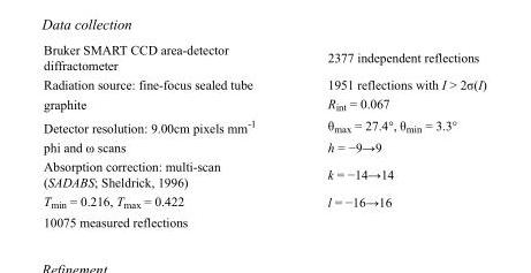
<table><tbody><tr><td>Bruker SMART CCD area-detector diffractometer</td><td>2377 independent reflections</td></tr><tr><td>Radiation source: fine-focus sealed tube</td><td>1951 reflections with I &gt; 2σ(I)</td></tr><tr><td>graphite</td><td>R<sub>int</sub> = 0.067</td></tr><tr><td>Detector resolution: 9.00cm pixels mm<sup>-1</sup></td><td>θ<sub>max</sub> = 27.4°, θ<sub>min</sub> = 3.3°</td></tr><tr><td>phi and ω scans</td><td>h = −9→9</td></tr><tr><td>Absorption correction: multi-scan (SADABS; Sheldrick, 1996)</td><td>k = −14→14</td></tr><tr><td>T<sub>min</sub> = 0.216, T<sub>max</sub> = 0.422</td><td>l = −16→16</td></tr><tr><td>10075 measured reflections</td><td></td></tr></tbody></table>